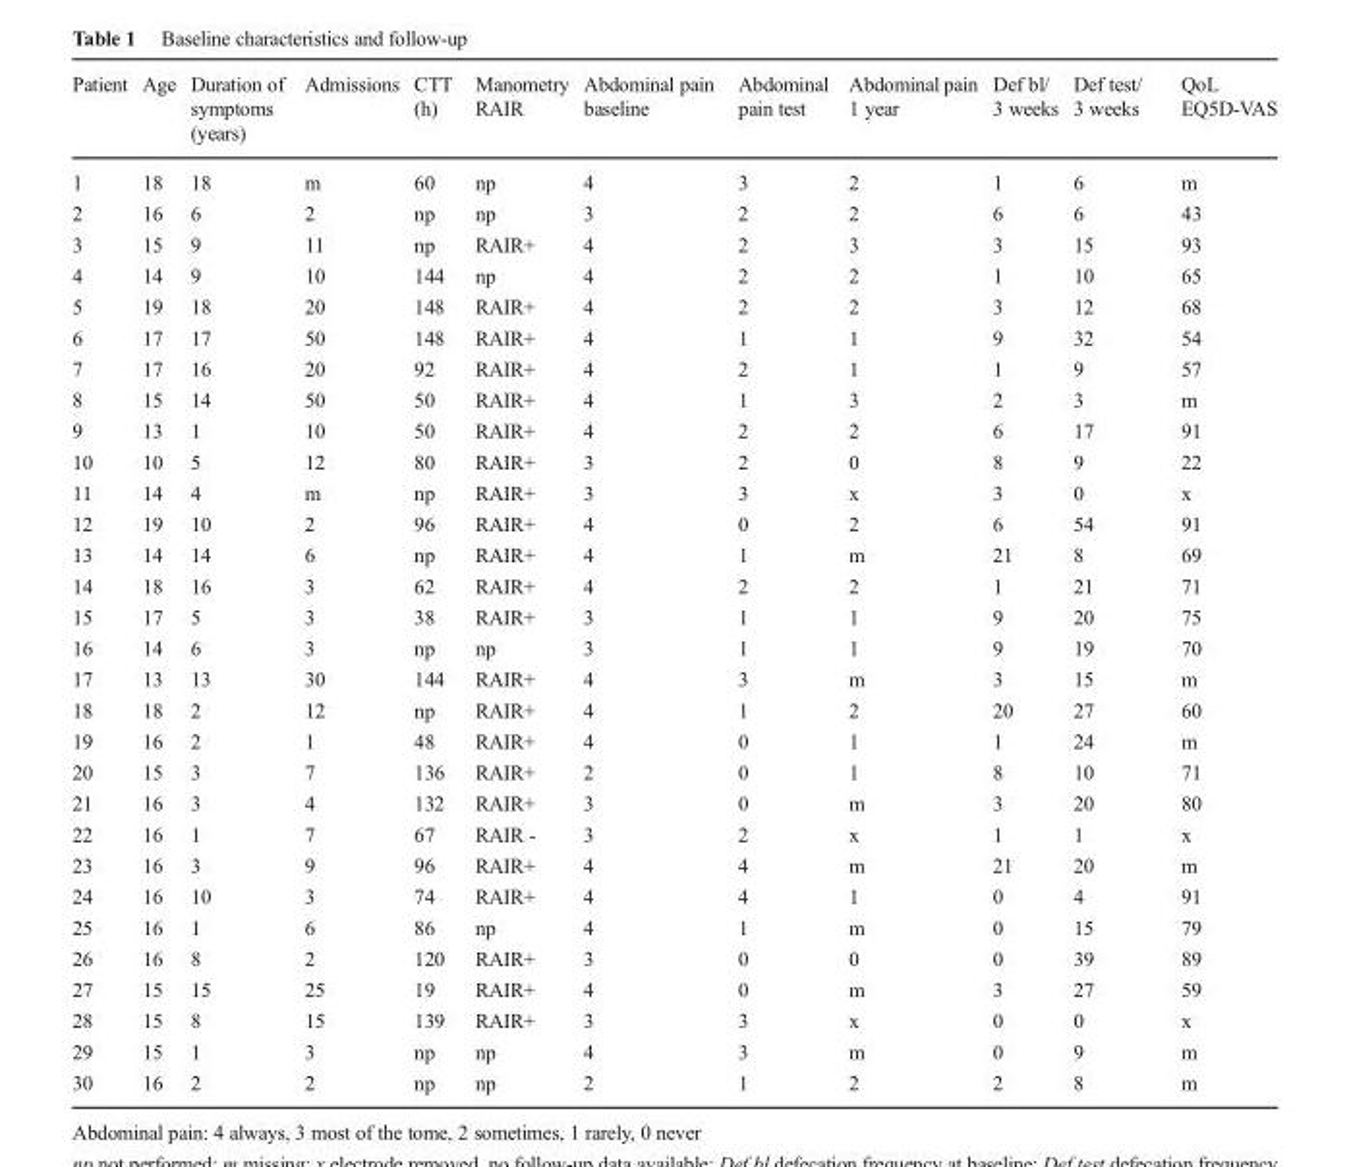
<table><thead><tr><td>Patient</td><td>Age</td><td>Duration of symptoms (years)</td><td>Admissions</td><td>CTT (h)</td><td>Manometry RAIR</td><td>Abdominal pain baseline</td><td>Abdominal pain test</td><td>Abdominal pain 1 year</td><td>Def bl/ 3 weeks</td><td>Def test/ 3 weeks</td><td>QoL EQ5D-VAS</td></tr></thead><tbody><tr><td>1</td><td>18</td><td>18</td><td>m</td><td>60</td><td>np</td><td>4</td><td>3</td><td>2</td><td>1</td><td>6</td><td>m</td></tr><tr><td>2</td><td>16</td><td>6</td><td>2</td><td>np</td><td>np</td><td>3</td><td>2</td><td>2</td><td>6</td><td>6</td><td>43</td></tr><tr><td>3</td><td>15</td><td>9</td><td>11</td><td>np</td><td>RAIR+</td><td>4</td><td>2</td><td>3</td><td>3</td><td>15</td><td>93</td></tr><tr><td>4</td><td>14</td><td>9</td><td>10</td><td>144</td><td>np</td><td>4</td><td>2</td><td>2</td><td>1</td><td>10</td><td>65</td></tr><tr><td>5</td><td>19</td><td>18</td><td>20</td><td>148</td><td>RAIR+</td><td>4</td><td>2</td><td>2</td><td>3</td><td>12</td><td>68</td></tr><tr><td>6</td><td>17</td><td>17</td><td>50</td><td>148</td><td>RAIR+</td><td>4</td><td>1</td><td>1</td><td>9</td><td>32</td><td>54</td></tr><tr><td>7</td><td>17</td><td>16</td><td>20</td><td>92</td><td>RAIR+</td><td>4</td><td>2</td><td>1</td><td>1</td><td>9</td><td>57</td></tr><tr><td>8</td><td>15</td><td>14</td><td>50</td><td>50</td><td>RAIR+</td><td>4</td><td>1</td><td>3</td><td>2</td><td>3</td><td>m</td></tr><tr><td>9</td><td>13</td><td>1</td><td>10</td><td>50</td><td>RAIR+</td><td>4</td><td>2</td><td>2</td><td>6</td><td>17</td><td>91</td></tr><tr><td>10</td><td>10</td><td>5</td><td>12</td><td>80</td><td>RAIR+</td><td>3</td><td>2</td><td>0</td><td>8</td><td>9</td><td>22</td></tr><tr><td>11</td><td>14</td><td>4</td><td>m</td><td>np</td><td>RAIR+</td><td>3</td><td>3</td><td>x</td><td>3</td><td>0</td><td>x</td></tr><tr><td>12</td><td>19</td><td>10</td><td>2</td><td>96</td><td>RAIR+</td><td>4</td><td>0</td><td>2</td><td>6</td><td>54</td><td>91</td></tr><tr><td>13</td><td>14</td><td>14</td><td>6</td><td>np</td><td>RAIR+</td><td>4</td><td>1</td><td>m</td><td>21</td><td>8</td><td>69</td></tr><tr><td>14</td><td>18</td><td>16</td><td>3</td><td>62</td><td>RAIR+</td><td>4</td><td>2</td><td>2</td><td>1</td><td>21</td><td>71</td></tr><tr><td>15</td><td>17</td><td>5</td><td>3</td><td>38</td><td>RAIR+</td><td>3</td><td>1</td><td>1</td><td>9</td><td>20</td><td>75</td></tr><tr><td>16</td><td>14</td><td>6</td><td>3</td><td>np</td><td>np</td><td>3</td><td>1</td><td>1</td><td>9</td><td>19</td><td>70</td></tr><tr><td>17</td><td>13</td><td>13</td><td>30</td><td>144</td><td>RAIR+</td><td>4</td><td>3</td><td>m</td><td>3</td><td>15</td><td>m</td></tr><tr><td>18</td><td>18</td><td>2</td><td>12</td><td>np</td><td>RAIR+</td><td>4</td><td>1</td><td>2</td><td>20</td><td>27</td><td>60</td></tr><tr><td>19</td><td>16</td><td>2</td><td>1</td><td>48</td><td>RAIR+</td><td>4</td><td>0</td><td>1</td><td>1</td><td>24</td><td>m</td></tr><tr><td>20</td><td>15</td><td>3</td><td>7</td><td>136</td><td>RAIR+</td><td>2</td><td>0</td><td>1</td><td>8</td><td>10</td><td>71</td></tr><tr><td>21</td><td>16</td><td>3</td><td>4</td><td>132</td><td>RAIR+</td><td>3</td><td>0</td><td>m</td><td>3</td><td>20</td><td>80</td></tr><tr><td>22</td><td>16</td><td>1</td><td>7</td><td>67</td><td>RAIR -</td><td>3</td><td>2</td><td>x</td><td>1</td><td>1</td><td>x</td></tr><tr><td>23</td><td>16</td><td>3</td><td>9</td><td>96</td><td>RAIR+</td><td>4</td><td>4</td><td>m</td><td>21</td><td>20</td><td>m</td></tr><tr><td>24</td><td>16</td><td>10</td><td>3</td><td>74</td><td>RAIR+</td><td>4</td><td>4</td><td>1</td><td>0</td><td>4</td><td>91</td></tr><tr><td>25</td><td>16</td><td>1</td><td>6</td><td>86</td><td>np</td><td>4</td><td>1</td><td>m</td><td>0</td><td>15</td><td>79</td></tr><tr><td>26</td><td>16</td><td>8</td><td>2</td><td>120</td><td>RAIR+</td><td>3</td><td>0</td><td>0</td><td>0</td><td>39</td><td>89</td></tr><tr><td>27</td><td>15</td><td>15</td><td>25</td><td>19</td><td>RAIR+</td><td>4</td><td>0</td><td>m</td><td>3</td><td>27</td><td>59</td></tr><tr><td>28</td><td>15</td><td>8</td><td>15</td><td>139</td><td>RAIR+</td><td>3</td><td>3</td><td>x</td><td>0</td><td>0</td><td>x</td></tr><tr><td>29</td><td>15</td><td>1</td><td>3</td><td>np</td><td>np</td><td>4</td><td>3</td><td>m</td><td>0</td><td>9</td><td>m</td></tr><tr><td>30</td><td>16</td><td>2</td><td>2</td><td>np</td><td>np</td><td>2</td><td>1</td><td>2</td><td>2</td><td>8</td><td>m</td></tr></tbody></table>